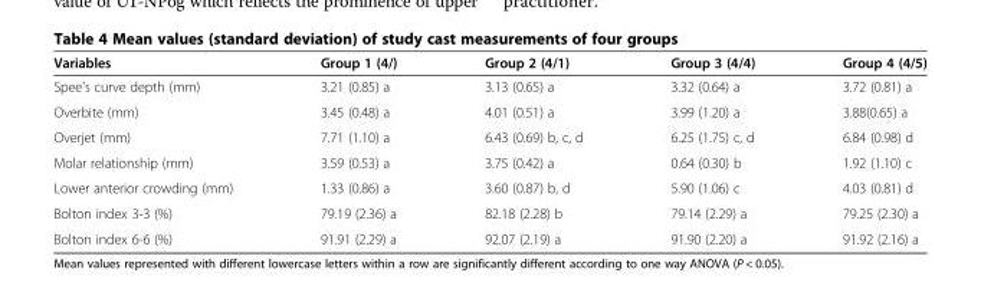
<table><thead><tr><td>Variables</td><td>Group 1 (4/)</td><td>Group 2 (4/1)</td><td>Group 3 (4/4)</td><td>Group 4 (4/5)</td></tr></thead><tbody><tr><td>Spee&#x27;s curve depth (mm)</td><td>3.21 (0.85) a</td><td>3.13 (0.65) a</td><td>3.32 (0.64) a</td><td>3.72 (0.81) a</td></tr><tr><td>Overbite (mm)</td><td>3.45 (0.48) a</td><td>4.01 (0.51) a</td><td>3.99 (1.20) a</td><td>3.88(0.65) a</td></tr><tr><td>Overjet (mm)</td><td>7.71 (1.10) a</td><td>6.43 (0.69) b, c, d</td><td>6.25 (1.75) c, d</td><td>6.84 (0.98) d</td></tr><tr><td>Molar relationship (mm)</td><td>3.59 (0.53) a</td><td>3.75 (0.42) a</td><td>0.64 (0.30) b</td><td>1.92 (1.10) c</td></tr><tr><td>Lower anterior crowding (mm)</td><td>1.33 (0.86) a</td><td>3.60 (0.87) b, d</td><td>5.90 (1.06) c</td><td>4.03 (0.81) d</td></tr><tr><td>Bolton index 3-3 (%)</td><td>79.19 (2.36) a</td><td>82.18 (2.28) b</td><td>79.14 (2.29) a</td><td>79.25 (2.30) a</td></tr><tr><td>Bolton index 6-6 (%)</td><td>91.91 (2.29) a</td><td>92.07 (2.19) a</td><td>91.90 (2.20) a</td><td>91.92 (2.16) a</td></tr></tbody></table>